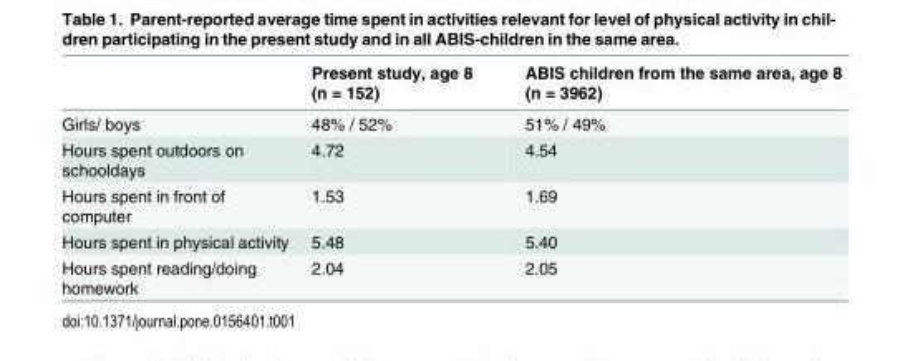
<table><thead><tr><td></td><td>Present study, age 8 (n = 152)</td><td>ABIS children from the same area, age 8 (n = 3962)</td></tr></thead><tbody><tr><td>Girls/ boys</td><td>48% / 52%</td><td>51% / 49%</td></tr><tr><td>Hours spent outdoors on schooldays</td><td>4.72</td><td>4.54</td></tr><tr><td>Hours spent in front of computer</td><td>1.53</td><td>1.69</td></tr><tr><td>Hours spent in physical activity</td><td>5.48</td><td>5.40</td></tr><tr><td>Hours spent reading/doing homework</td><td>2.04</td><td>2.05</td></tr></tbody></table>